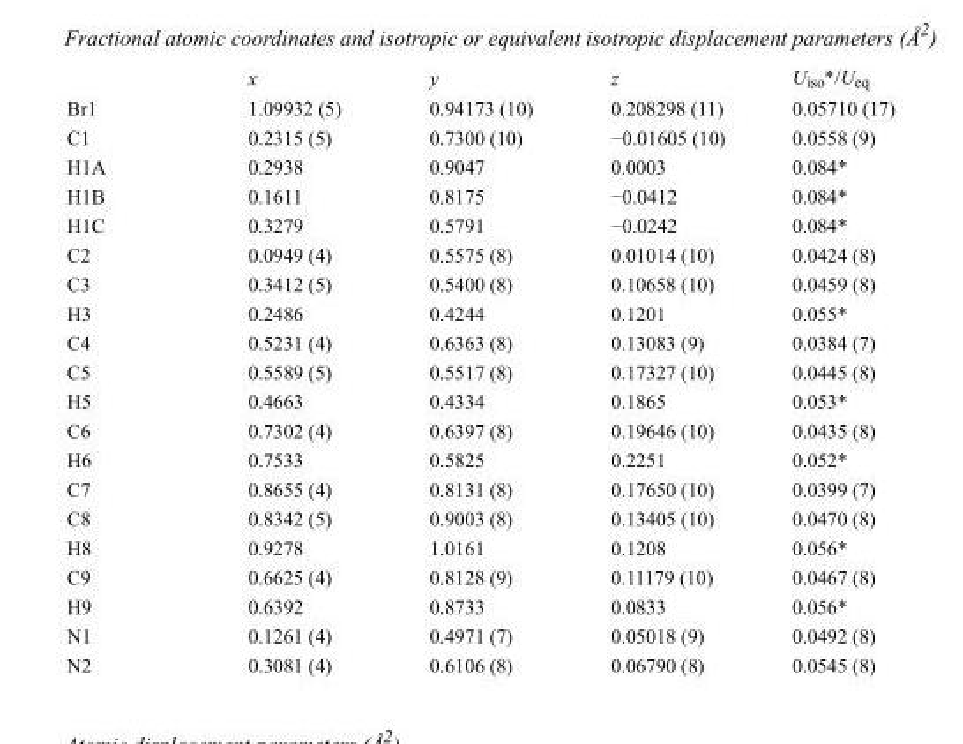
<table><thead><tr><td></td><td>x</td><td>y</td><td>z</td><td>U<sub>iso</sub>*/U<sub>eq</sub></td></tr></thead><tbody><tr><td>Br1</td><td>1.09932 (5)</td><td>0.94173 (10)</td><td>0.208298 (11)</td><td>0.05710 (17)</td></tr><tr><td>C1</td><td>0.2315 (5)</td><td>0.7300 (10)</td><td>−0.01605 (10)</td><td>0.0558 (9)</td></tr><tr><td>H1A</td><td>0.2938</td><td>0.9047</td><td>0.0003</td><td>0.084*</td></tr><tr><td>H1B</td><td>0.1611</td><td>0.8175</td><td>−0.0412</td><td>0.084*</td></tr><tr><td>H1C</td><td>0.3279</td><td>0.5791</td><td>−0.0242</td><td>0.084*</td></tr><tr><td>C2</td><td>0.0949 (4)</td><td>0.5575 (8)</td><td>0.01014 (10)</td><td>0.0424 (8)</td></tr><tr><td>C3</td><td>0.3412 (5)</td><td>0.5400 (8)</td><td>0.10658 (10)</td><td>0.0459 (8)</td></tr><tr><td>H3</td><td>0.2486</td><td>0.4244</td><td>0.1201</td><td>0.055*</td></tr><tr><td>C4</td><td>0.5231 (4)</td><td>0.6363 (8)</td><td>0.13083 (9)</td><td>0.0384 (7)</td></tr><tr><td>C5</td><td>0.5589 (5)</td><td>0.5517 (8)</td><td>0.17327 (10)</td><td>0.0445 (8)</td></tr><tr><td>H5</td><td>0.4663</td><td>0.4334</td><td>0.1865</td><td>0.053*</td></tr><tr><td>C6</td><td>0.7302 (4)</td><td>0.6397 (8)</td><td>0.19646 (10)</td><td>0.0435 (8)</td></tr><tr><td>H6</td><td>0.7533</td><td>0.5825</td><td>0.2251</td><td>0.052*</td></tr><tr><td>C7</td><td>0.8655 (4)</td><td>0.8131 (8)</td><td>0.17650 (10)</td><td>0.0399 (7)</td></tr><tr><td>C8</td><td>0.8342 (5)</td><td>0.9003 (8)</td><td>0.13405 (10)</td><td>0.0470 (8)</td></tr><tr><td>H8</td><td>0.9278</td><td>1.0161</td><td>0.1208</td><td>0.056*</td></tr><tr><td>C9</td><td>0.6625 (4)</td><td>0.8128 (9)</td><td>0.11179 (10)</td><td>0.0467 (8)</td></tr><tr><td>H9</td><td>0.6392</td><td>0.8733</td><td>0.0833</td><td>0.056*</td></tr><tr><td>N1</td><td>0.1261 (4)</td><td>0.4971 (7)</td><td>0.05018 (9)</td><td>0.0492 (8)</td></tr><tr><td>N2</td><td>0.3081 (4)</td><td>0.6106 (8)</td><td>0.06790 (8)</td><td>0.0545 (8)</td></tr></tbody></table>